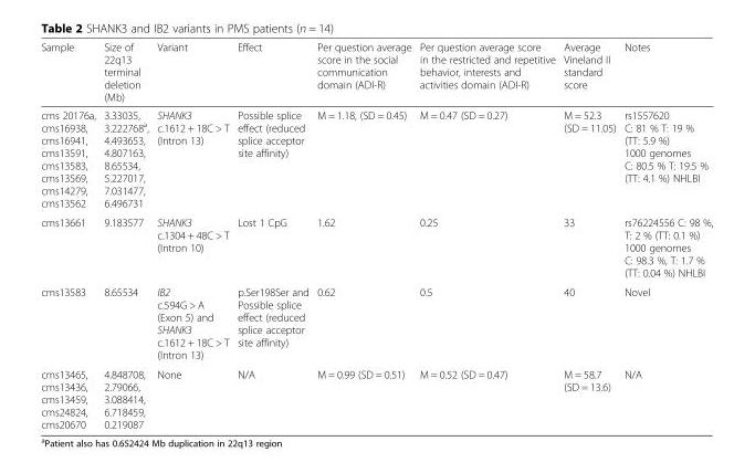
<table><thead><tr><td>Sample</td><td>Size of 22q13 terminal deletion (Mb)</td><td>Variant</td><td>Effect</td><td>Per question average score in the social communication domain (ADI-R)</td><td>Per question average score in the restricted and repetitive behavior, interests and activities domain (ADI-R)</td><td>Average Vineland II standard score</td><td>Notes</td></tr></thead><tbody><tr><td>cms 20176a, cms16938, cms16941, cms13591, cms13583, cms13569, cms14279, cms13562</td><td>3.33035, 3.222768<sup>a</sup>, 4.493653, 4.807163, 8.65534, 5.227017, 7.031477, 6.496731</td><td>SHANK3 c.1612 + 18C &gt; T (Intron 13)</td><td>Possible splice effect (reduced splice acceptor site affinity)</td><td>M = 1.18, (SD = 0.45)</td><td>M = 0.47 (SD = 0.27)</td><td>M = 52.3 (SD = 11.05)</td><td>rs1557620 C: 81 % T: 19 % (TT: 5.9 %) 1000 genomes C: 80.5 % T: 19.5 % (TT: 4.1 %) NHLBI</td></tr><tr><td>cms13661</td><td>9.183577</td><td>SHANK3 c.1304 + 48C &gt; T (Intron 10)</td><td>Lost 1 CpG</td><td>1.62</td><td>0.25</td><td>33</td><td>rs76224556 C: 98 %, T: 2 % (TT: 0.1 %) 1000 genomes C: 98.3 %, T: 1.7 % (TT: 0.04 %) NHLBI</td></tr><tr><td>cms13583</td><td>8.65534</td><td>IB2 c.594G &gt; A (Exon 5) and SHANK3 c.1612 + 18C &gt; T (Intron 13)</td><td>p.Ser198Ser and Possible splice effect (reduced splice acceptor site affinity)</td><td>0.62</td><td>0.5</td><td>40</td><td>Novel</td></tr><tr><td>cms13465, cms13436, cms13459, cms24824, cms20670</td><td>4.848708, 2.79066, 3.088414, 6.718459, 0.219087</td><td>None</td><td>N/A</td><td>M = 0.99 (SD = 0.51)</td><td>M = 0.52 (SD = 0.47)</td><td>M = 58.7 (SD = 13.6)</td><td>N/A</td></tr></tbody></table>